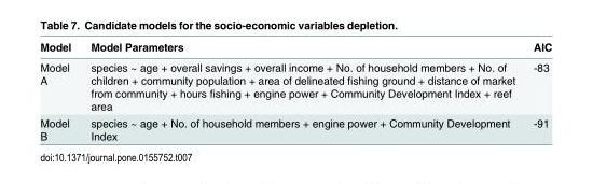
<table><thead><tr><td>Model</td><td>Model Parameters</td><td>AIC</td></tr></thead><tbody><tr><td>Model A</td><td>species ~ age + overall savings + overall income + No. of household members + No. of children + community population + area of delineated fishing ground + distance of market from community + hours fishing + engine power + Community Development Index + reef area</td><td>-83</td></tr><tr><td>Model B</td><td>species ~ age + No. of household members + engine power + Community Development Index</td><td>-91</td></tr></tbody></table>